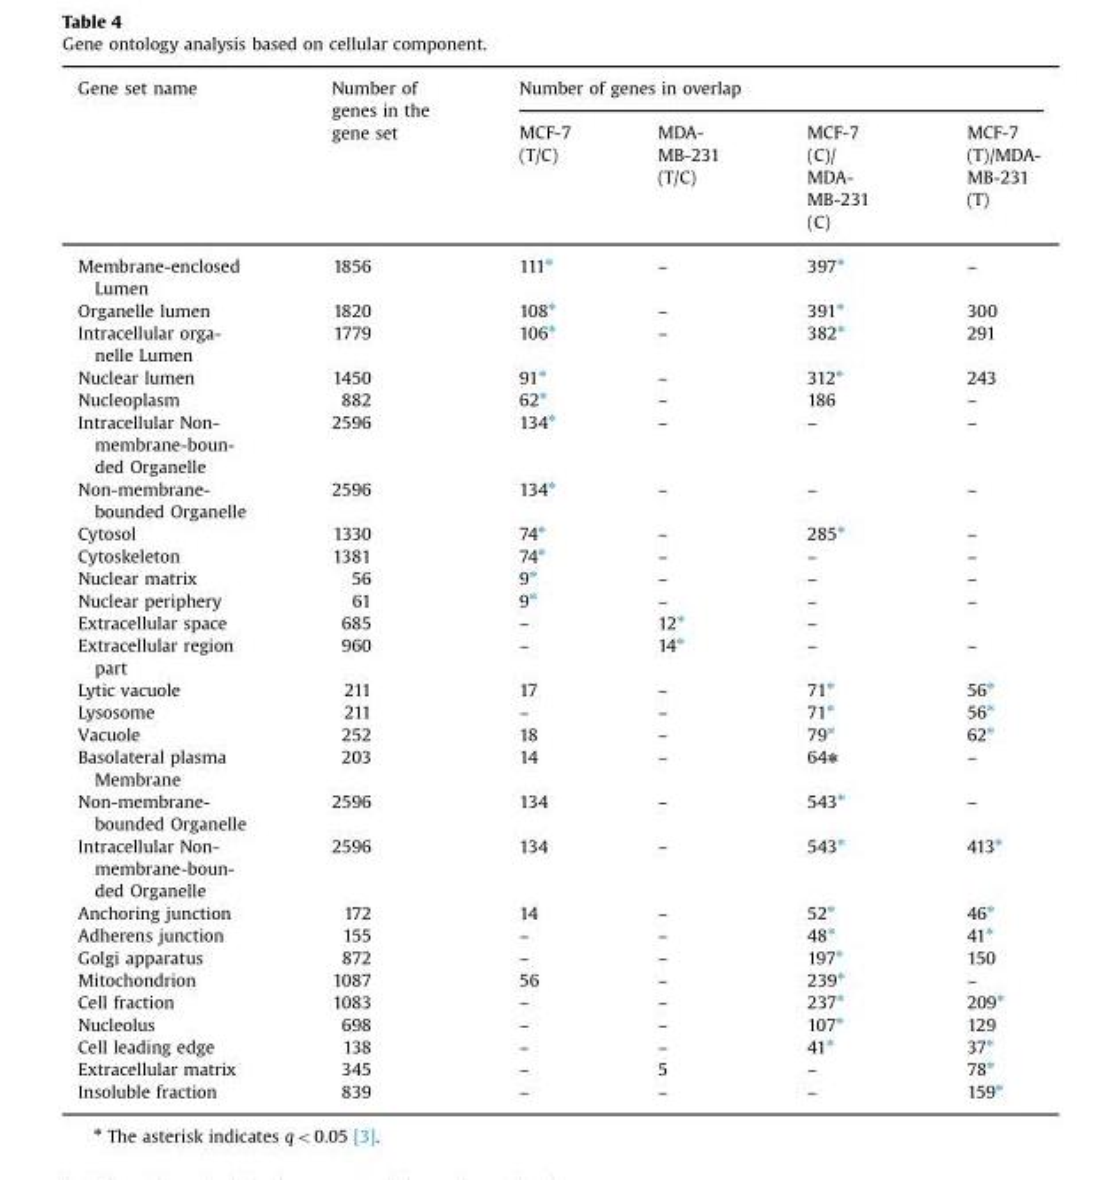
<table><thead><tr><td rowspan="2">Gene set name</td><td rowspan="2">Number of genes in the gene set</td><td colspan="4">Number of genes in overlap</td></tr><tr><td>MCF-7 (T/C)</td><td>MDA- MB-231 (T/C)</td><td>MCF-7 (C)/ MDA- MB-231 (C)</td><td>MCF-7 (T)/MDA- MB-231 (T)</td></tr></thead><tbody><tr><td>Membrane-enclosed Lumen</td><td>1856</td><td>111⁎</td><td>–</td><td>397⁎</td><td>–</td></tr><tr><td>Organelle lumen</td><td>1820</td><td>108⁎</td><td>–</td><td>391⁎</td><td>300</td></tr><tr><td>Intracellular orga- nelle Lumen</td><td>1779</td><td>106⁎</td><td>–</td><td>382⁎</td><td>291</td></tr><tr><td>Nuclear lumen</td><td>1450</td><td>91⁎</td><td>–</td><td>312⁎</td><td>243</td></tr><tr><td>Nucleoplasm</td><td>882</td><td>62⁎</td><td>–</td><td>186</td><td>–</td></tr><tr><td>Intracellular Non- membrane-boun- ded Organelle</td><td>2596</td><td>134⁎</td><td>–</td><td>–</td><td>–</td></tr><tr><td>Non-membrane- bounded Organelle</td><td>2596</td><td>134⁎</td><td>–</td><td>–</td><td>–</td></tr><tr><td>Cytosol</td><td>1330</td><td>74⁎</td><td>–</td><td>285⁎</td><td>–</td></tr><tr><td>Cytoskeleton</td><td>1381</td><td>74⁎</td><td>–</td><td>–</td><td>–</td></tr><tr><td>Nuclear matrix</td><td>56</td><td>9⁎</td><td>–</td><td>–</td><td>–</td></tr><tr><td>Nuclear periphery</td><td>61</td><td>9⁎</td><td>–</td><td>–</td><td>–</td></tr><tr><td>Extracellular space</td><td>685</td><td>–</td><td>12⁎</td><td>–</td><td></td></tr><tr><td>Extracellular region part</td><td>960</td><td>–</td><td>14⁎</td><td>–</td><td>–</td></tr><tr><td>Lytic vacuole</td><td>211</td><td>17</td><td>–</td><td>71⁎</td><td>56⁎</td></tr><tr><td>Lysosome</td><td>211</td><td>–</td><td>–</td><td>71⁎</td><td>56⁎</td></tr><tr><td>Vacuole</td><td>252</td><td>18</td><td>–</td><td>79⁎</td><td>62⁎</td></tr><tr><td>Basolateral plasma Membrane</td><td>203</td><td>14</td><td>–</td><td>64⁎</td><td>–</td></tr><tr><td>Non-membrane- bounded Organelle</td><td>2596</td><td>134</td><td>–</td><td>543⁎</td><td>–</td></tr><tr><td>Intracellular Non- membrane-boun- ded Organelle</td><td>2596</td><td>134</td><td>–</td><td>543⁎</td><td>413⁎</td></tr><tr><td>Anchoring junction</td><td>172</td><td>14</td><td>–</td><td>52⁎</td><td>46⁎</td></tr><tr><td>Adherens junction</td><td>155</td><td>–</td><td>–</td><td>48⁎</td><td>41⁎</td></tr><tr><td>Golgi apparatus</td><td>872</td><td>–</td><td>–</td><td>197⁎</td><td>150</td></tr><tr><td>Mitochondrion</td><td>1087</td><td>56</td><td>–</td><td>239⁎</td><td>–</td></tr><tr><td>Cell fraction</td><td>1083</td><td>–</td><td>–</td><td>237⁎</td><td>209⁎</td></tr><tr><td>Nucleolus</td><td>698</td><td>–</td><td>–</td><td>107⁎</td><td>129</td></tr><tr><td>Cell leading edge</td><td>138</td><td>–</td><td>–</td><td>41⁎</td><td>37⁎</td></tr><tr><td>Extracellular matrix</td><td>345</td><td>–</td><td>5</td><td>–</td><td>78⁎</td></tr><tr><td>Insoluble fraction</td><td>839</td><td>–</td><td>–</td><td>–</td><td>159⁎</td></tr></tbody></table>